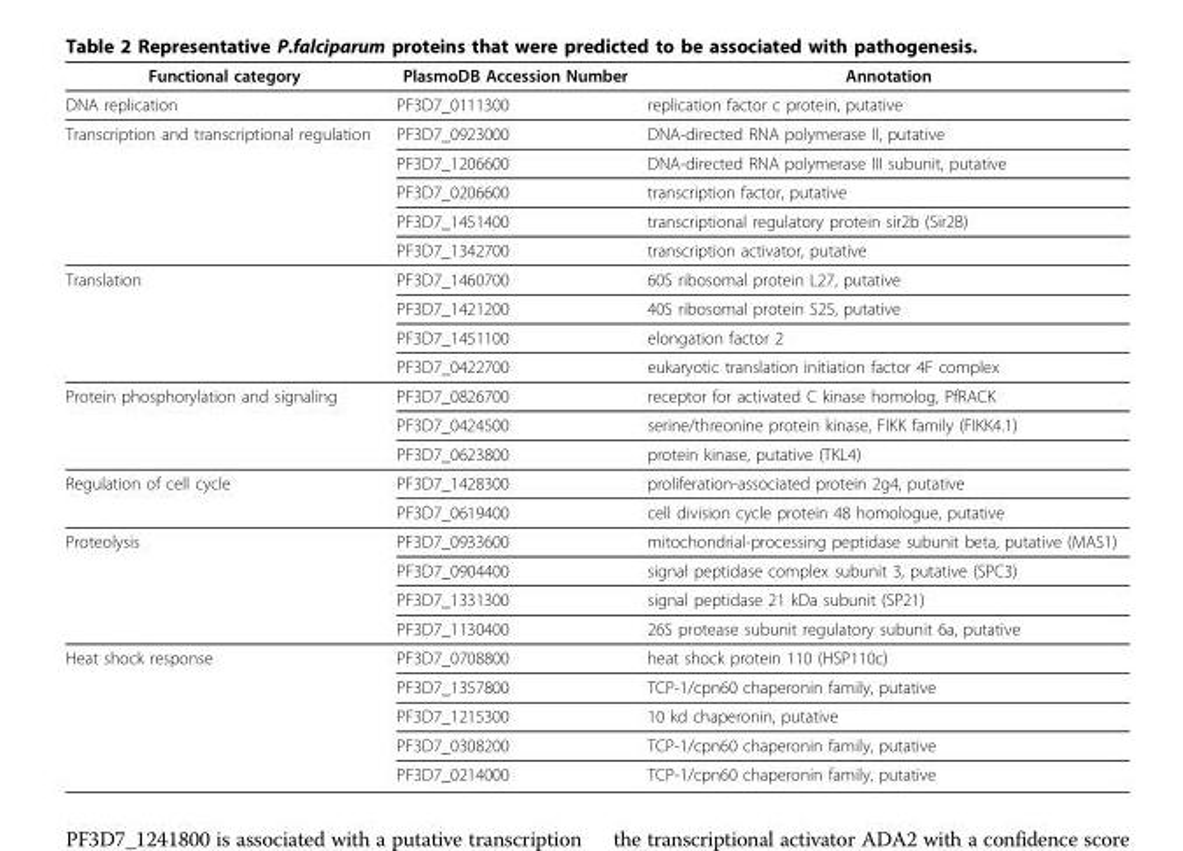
<table><thead><tr><td>Functional category</td><td>PlasmoDB Accession Number</td><td>Annotation</td></tr></thead><tbody><tr><td>DNA replication</td><td>PF3D7_0111300</td><td>replication factor c protein, putative</td></tr><tr><td rowspan="5">Transcription and transcriptional regulation</td><td>PF3D7_0923000</td><td>DNA-directed RNA polymerase II, putative</td></tr><tr><td>PF3D7_1206600</td><td>DNA-directed RNA polymerase III subunit, putative</td></tr><tr><td>PF3D7_0206600</td><td>transcription factor, putative</td></tr><tr><td>PF3D7_1451400</td><td>transcriptional regulatory protein sir2b (Sir2B)</td></tr><tr><td>PF3D7_1342700</td><td>transcription activator, putative</td></tr><tr><td rowspan="4">Translation</td><td>PF3D7_1460700</td><td>60S ribosomal protein L27, putative</td></tr><tr><td>PF3D7_1421200</td><td>40S ribosomal protein S25, putative</td></tr><tr><td>PF3D7_1451100</td><td>elongation factor 2</td></tr><tr><td>PF3D7_0422700</td><td>eukaryotic translation initiation factor 4F complex</td></tr><tr><td rowspan="3">Protein phosphorylation and signaling</td><td>PF3D7_0826700</td><td>receptor for activated C kinase homolog, PfRACK</td></tr><tr><td>PF3D7_0424500</td><td>serine/threonine protein kinase, FIKK family (FIKK4.1)</td></tr><tr><td>PF3D7_0623800</td><td>protein kinase, putative (TKL4)</td></tr><tr><td rowspan="2">Regulation of cell cycle</td><td>PF3D7_1428300</td><td>proliferation-associated protein 2g4, putative</td></tr><tr><td>PF3D7_0619400</td><td>cell division cycle protein 48 homologue, putative</td></tr><tr><td rowspan="4">Proteolysis</td><td>PF3D7_0933600</td><td>mitochondrial-processing peptidase subunit beta, putative (MAS1)</td></tr><tr><td>PF3D7_0904400</td><td>signal peptidase complex subunit 3, putative (SPC3)</td></tr><tr><td>PF3D7_1331300</td><td>signal peptidase 21 kDa subunit (SP21)</td></tr><tr><td>PF3D7_1130400</td><td>26S protease subunit regulatory subunit 6a, putative</td></tr><tr><td rowspan="5">Heat shock response</td><td>PF3D7_0708800</td><td>heat shock protein 110 (HSP110c)</td></tr><tr><td>PF3D7_1357800</td><td>TCP-1/cpn60 chaperonin family, putative</td></tr><tr><td>PF3D7_1215300</td><td>10 kd chaperonin, putative</td></tr><tr><td>PF3D7_0308200</td><td>TCP-1/cpn60 chaperonin family, putative</td></tr><tr><td>PF3D7_0214000</td><td>TCP-1/cpn60 chaperonin family, putative</td></tr></tbody></table>